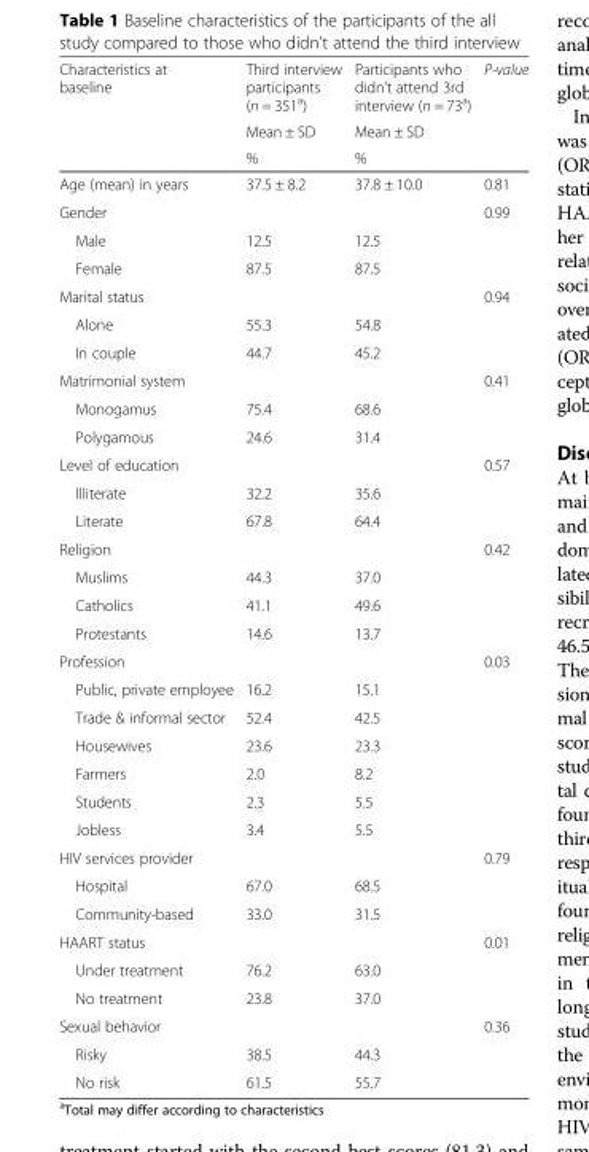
<table><thead><tr><td rowspan="3">Characteristics at baseline</td><td rowspan="3">Third interview participants (n = 351<sup>a</sup>) Mean ± SD %</td><td rowspan="3">Participants who didn’t attend 3rd interview (n = 73<sup>a</sup>) Mean ± SD %</td><td rowspan="3">P-value</td></tr><tr></tr><tr></tr></thead><tbody><tr><td>Age (mean) in years</td><td>37.5 ± 8.2</td><td>37.8 ± 10.0</td><td>0.81</td></tr><tr><td>Gender</td><td></td><td></td><td>0.99</td></tr><tr><td>Male</td><td>12.5</td><td>12.5</td><td></td></tr><tr><td>Female</td><td>87.5</td><td>87.5</td><td></td></tr><tr><td>Marital status</td><td></td><td></td><td>0.94</td></tr><tr><td>Alone</td><td>55.3</td><td>54.8</td><td></td></tr><tr><td>In couple</td><td>44.7</td><td>45.2</td><td></td></tr><tr><td>Matrimonial system</td><td></td><td></td><td>0.41</td></tr><tr><td>Monogamus</td><td>75.4</td><td>68.6</td><td></td></tr><tr><td>Polygamous</td><td>24.6</td><td>31.4</td><td></td></tr><tr><td>Level of education</td><td></td><td></td><td>0.57</td></tr><tr><td>Illiterate</td><td>32.2</td><td>35.6</td><td></td></tr><tr><td>Literate</td><td>67.8</td><td>64.4</td><td></td></tr><tr><td>Religion</td><td></td><td></td><td>0.42</td></tr><tr><td>Muslims</td><td>44.3</td><td>37.0</td><td></td></tr><tr><td>Catholics</td><td>41.1</td><td>49.6</td><td></td></tr><tr><td>Protestants</td><td>14.6</td><td>13.7</td><td></td></tr><tr><td>Profession</td><td></td><td></td><td>0.03</td></tr><tr><td>Public, private employee</td><td>16.2</td><td>15.1</td><td></td></tr><tr><td>Trade &amp; informal sector</td><td>52.4</td><td>42.5</td><td></td></tr><tr><td>Housewives</td><td>23.6</td><td>23.3</td><td></td></tr><tr><td>Farmers</td><td>2.0</td><td>8.2</td><td></td></tr><tr><td>Students</td><td>2.3</td><td>5.5</td><td></td></tr><tr><td>Jobless</td><td>3.4</td><td>5.5</td><td></td></tr><tr><td>HIV services provider</td><td></td><td></td><td>0.79</td></tr><tr><td>Hospital</td><td>67.0</td><td>68.5</td><td></td></tr><tr><td>Community-based</td><td>33.0</td><td>31.5</td><td></td></tr><tr><td>HAART status</td><td></td><td></td><td>0.01</td></tr><tr><td>Under treatment</td><td>76.2</td><td>63.0</td><td></td></tr><tr><td>No treatment</td><td>23.8</td><td>37.0</td><td></td></tr><tr><td>Sexual behavior</td><td></td><td></td><td>0.36</td></tr><tr><td>Risky</td><td>38.5</td><td>44.3</td><td></td></tr><tr><td>No risk</td><td>61.5</td><td>55.7</td><td></td></tr></tbody></table>